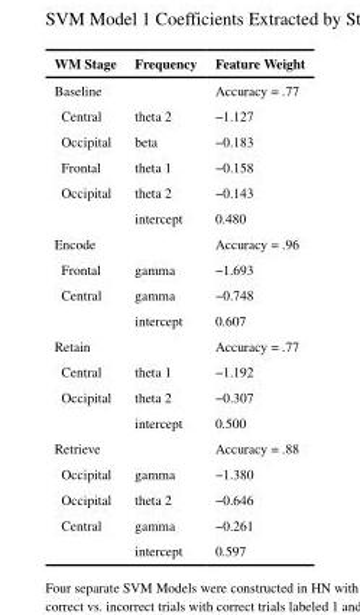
<table><thead><tr><td>WM Stage</td><td>Frequency</td><td>Feature Weight</td></tr></thead><tbody><tr><td>Baseline</td><td></td><td>Accuracy = .77</td></tr><tr><td>Central</td><td>theta 2</td><td>−1.127</td></tr><tr><td>Occipital</td><td>beta</td><td>−0.183</td></tr><tr><td>Frontal</td><td>theta 1</td><td>−0.158</td></tr><tr><td rowspan="2">Occipital</td><td>theta 2</td><td>−0.143</td></tr><tr><td>intercept</td><td>0.480</td></tr><tr><td>Encode</td><td></td><td>Accuracy = .96</td></tr><tr><td>Frontal</td><td>gamma</td><td>−1.693</td></tr><tr><td rowspan="2">Central</td><td>gamma</td><td>−0.748</td></tr><tr><td>intercept</td><td>0.607</td></tr><tr><td>Retain</td><td></td><td>Accuracy = .77</td></tr><tr><td>Central</td><td>theta 1</td><td>−1.192</td></tr><tr><td rowspan="2">Occipital</td><td>theta 2</td><td>−0.307</td></tr><tr><td>intercept</td><td>0.500</td></tr><tr><td>Retrieve</td><td></td><td>Accuracy = .88</td></tr><tr><td>Occipital</td><td>gamma</td><td>−1.380</td></tr><tr><td>Occipital</td><td>theta 2</td><td>−0.646</td></tr><tr><td rowspan="2">Central</td><td>gamma</td><td>−0.261</td></tr><tr><td>intercept</td><td>0.597</td></tr></tbody></table>